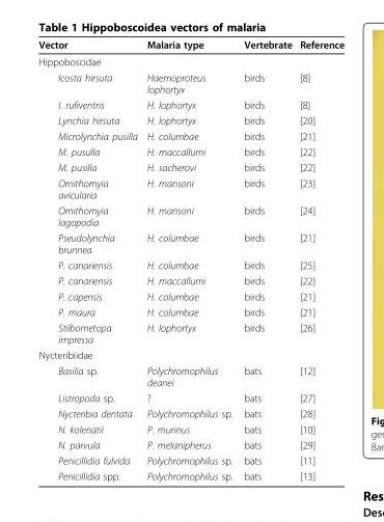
<table><thead><tr><td>Vector</td><td>Malaria type</td><td>Vertebrate</td><td>Reference</td></tr></thead><tbody><tr><td colspan="4">Hippoboscidae</td></tr><tr><td>Icosta hirsuta</td><td>Haemoproteus lophortyx</td><td>birds</td><td>[8]</td></tr><tr><td>I. rufiventris</td><td>H. lophortyx</td><td>birds</td><td>[8]</td></tr><tr><td>Lynchia hirsuta</td><td>H. lophortyx</td><td>birds</td><td>[20]</td></tr><tr><td>Microlynchia pusilla</td><td>H. columbae</td><td>birds</td><td>[21]</td></tr><tr><td>M. pusulla</td><td>H. maccallumi</td><td>birds</td><td>[22]</td></tr><tr><td>M. pusilla</td><td>H. sacherovi</td><td>birds</td><td>[22]</td></tr><tr><td>Ornithomyia avicularia</td><td>H. mansoni</td><td>birds</td><td>[23]</td></tr><tr><td>Ornithomyia lagopodia</td><td>H. mansoni</td><td>birds</td><td>[24]</td></tr><tr><td>Pseudolynchia brunnea</td><td>H. columbae</td><td>birds</td><td>[21]</td></tr><tr><td>P. canariensis</td><td>H. columbae</td><td>birds</td><td>[25]</td></tr><tr><td>P. canariensis</td><td>H. maccallumi</td><td>birds</td><td>[22]</td></tr><tr><td>P. capensis</td><td>H. columbae</td><td>birds</td><td>[21]</td></tr><tr><td>P. maura</td><td>H. columbae</td><td>birds</td><td>[21]</td></tr><tr><td>Stilbometopa impressa</td><td>H. lophortyx</td><td>birds</td><td>[26]</td></tr><tr><td colspan="4">Nycteribiidae</td></tr><tr><td>Basilia sp.</td><td>Polychromophilus deanei</td><td>bats</td><td>[12]</td></tr><tr><td>Listropoda sp.</td><td>?</td><td>bats</td><td>[27]</td></tr><tr><td>Nycteribia dentata</td><td>Polychromophilus sp.</td><td>bats</td><td>[28]</td></tr><tr><td>N. kolenatii</td><td>P. murinus</td><td>bats</td><td>[10]</td></tr><tr><td>N. parvula</td><td>P. melanipherus</td><td>bats</td><td>[29]</td></tr><tr><td>Penicillidia fulvida</td><td>Polychromophilus sp.</td><td>bats</td><td>[11]</td></tr><tr><td>Penicillidia spp.</td><td>Polychromophilus sp.</td><td>bats</td><td>[13]</td></tr></tbody></table>